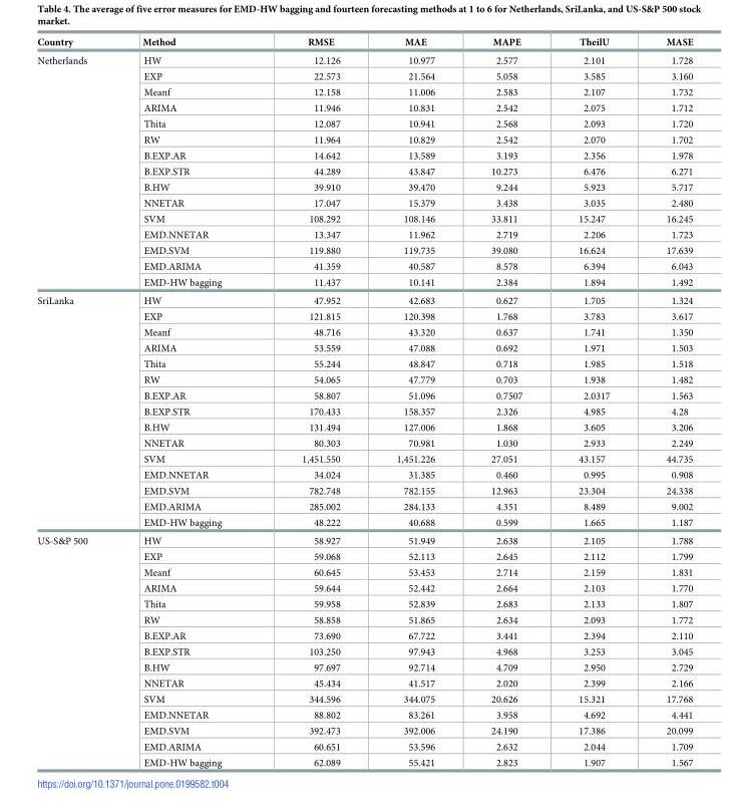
<table><thead><tr><td>Country</td><td>Method</td><td>RMSE</td><td>MAE</td><td>MAPE</td><td>TheilU</td><td>MASE</td></tr></thead><tbody><tr><td rowspan="15">Netherlands</td><td>HW</td><td>12.126</td><td>10.977</td><td>2.577</td><td>2.101</td><td>1.728</td></tr><tr><td>EXP</td><td>22.573</td><td>21.564</td><td>5.058</td><td>3.585</td><td>3.160</td></tr><tr><td>Meanf</td><td>12.158</td><td>11.006</td><td>2.583</td><td>2.107</td><td>1.732</td></tr><tr><td>ARIMA</td><td>11.946</td><td>10.831</td><td>2.542</td><td>2.075</td><td>1.712</td></tr><tr><td>Thita</td><td>12.087</td><td>10.941</td><td>2.568</td><td>2.093</td><td>1.720</td></tr><tr><td>RW</td><td>11.964</td><td>10.829</td><td>2.542</td><td>2.070</td><td>1.702</td></tr><tr><td>B.EXP.AR</td><td>14.642</td><td>13.589</td><td>3.193</td><td>2.356</td><td>1.978</td></tr><tr><td>B.EXP.STR</td><td>44.289</td><td>43.847</td><td>10.273</td><td>6.476</td><td>6.271</td></tr><tr><td>B.HW</td><td>39.910</td><td>39.470</td><td>9.244</td><td>5.923</td><td>5.717</td></tr><tr><td>NNETAR</td><td>17.047</td><td>15.379</td><td>3.438</td><td>3.035</td><td>2.480</td></tr><tr><td>SVM</td><td>108.292</td><td>108.146</td><td>33.811</td><td>15.247</td><td>16.245</td></tr><tr><td>EMD.NNETAR</td><td>13.347</td><td>11.962</td><td>2.719</td><td>2.206</td><td>1.723</td></tr><tr><td>EMD.SVM</td><td>119.880</td><td>119.735</td><td>39.080</td><td>16.624</td><td>17.639</td></tr><tr><td>EMD.ARIMA</td><td>41.359</td><td>40.587</td><td>8.578</td><td>6.394</td><td>6.043</td></tr><tr><td>EMD-HW bagging</td><td>11.437</td><td>10.141</td><td>2.384</td><td>1.894</td><td>1.492</td></tr><tr><td rowspan="15">SriLanka</td><td>HW</td><td>47.952</td><td>42.683</td><td>0.627</td><td>1.705</td><td>1.324</td></tr><tr><td>EXP</td><td>121.815</td><td>120.398</td><td>1.768</td><td>3.783</td><td>3.617</td></tr><tr><td>Meanf</td><td>48.716</td><td>43.320</td><td>0.637</td><td>1.741</td><td>1.350</td></tr><tr><td>ARIMA</td><td>53.559</td><td>47.088</td><td>0.692</td><td>1.971</td><td>1.503</td></tr><tr><td>Thita</td><td>55.244</td><td>48.847</td><td>0.718</td><td>1.985</td><td>1.518</td></tr><tr><td>RW</td><td>54.065</td><td>47.779</td><td>0.703</td><td>1.938</td><td>1.482</td></tr><tr><td>B.EXP.AR</td><td>58.807</td><td>51.096</td><td>0.7507</td><td>2.0317</td><td>1.563</td></tr><tr><td>B.EXP.STR</td><td>170.433</td><td>158.357</td><td>2.326</td><td>4.985</td><td>4.28</td></tr><tr><td>B.HW</td><td>131.494</td><td>127.006</td><td>1.868</td><td>3.605</td><td>3.206</td></tr><tr><td>NNETAR</td><td>80.303</td><td>70.981</td><td>1.030</td><td>2.933</td><td>2.249</td></tr><tr><td>SVM</td><td>1,451.550</td><td>1,451.226</td><td>27.051</td><td>43.157</td><td>44.735</td></tr><tr><td>EMD.NNETAR</td><td>34.024</td><td>31.385</td><td>0.460</td><td>0.995</td><td>0.908</td></tr><tr><td>EMD.SVM</td><td>782.748</td><td>782.155</td><td>12.963</td><td>23.304</td><td>24.338</td></tr><tr><td>EMD.ARIMA</td><td>285.002</td><td>284.133</td><td>4.351</td><td>8.489</td><td>9.002</td></tr><tr><td>EMD-HW bagging</td><td>48.222</td><td>40.688</td><td>0.599</td><td>1.665</td><td>1.187</td></tr><tr><td rowspan="15">US-S&amp;P 500</td><td>HW</td><td>58.927</td><td>51.949</td><td>2.638</td><td>2.105</td><td>1.788</td></tr><tr><td>EXP</td><td>59.068</td><td>52.113</td><td>2.645</td><td>2.112</td><td>1.799</td></tr><tr><td>Meanf</td><td>60.645</td><td>53.453</td><td>2.714</td><td>2.159</td><td>1.831</td></tr><tr><td>ARIMA</td><td>59.644</td><td>52.442</td><td>2.664</td><td>2.103</td><td>1.770</td></tr><tr><td>Thita</td><td>59.958</td><td>52.839</td><td>2.683</td><td>2.133</td><td>1.807</td></tr><tr><td>RW</td><td>58.858</td><td>51.865</td><td>2.634</td><td>2.093</td><td>1.772</td></tr><tr><td>B.EXP.AR</td><td>73.690</td><td>67.722</td><td>3.441</td><td>2.394</td><td>2.110</td></tr><tr><td>B.EXP.STR</td><td>103.250</td><td>97.943</td><td>4.968</td><td>3.253</td><td>3.045</td></tr><tr><td>B.HW</td><td>97.697</td><td>92.714</td><td>4.709</td><td>2.950</td><td>2.729</td></tr><tr><td>NNETAR</td><td>45.434</td><td>41.517</td><td>2.020</td><td>2.399</td><td>2.166</td></tr><tr><td>SVM</td><td>344.596</td><td>344.075</td><td>20.626</td><td>15.321</td><td>17.768</td></tr><tr><td>EMD.NNETAR</td><td>88.802</td><td>83.261</td><td>3.958</td><td>4.692</td><td>4.441</td></tr><tr><td>EMD.SVM</td><td>392.473</td><td>392.006</td><td>24.190</td><td>17.386</td><td>20.099</td></tr><tr><td>EMD.ARIMA</td><td>60.651</td><td>53.596</td><td>2.632</td><td>2.044</td><td>1.709</td></tr><tr><td>EMD-HW bagging</td><td>62.089</td><td>55.421</td><td>2.823</td><td>1.907</td><td>1.567</td></tr></tbody></table>